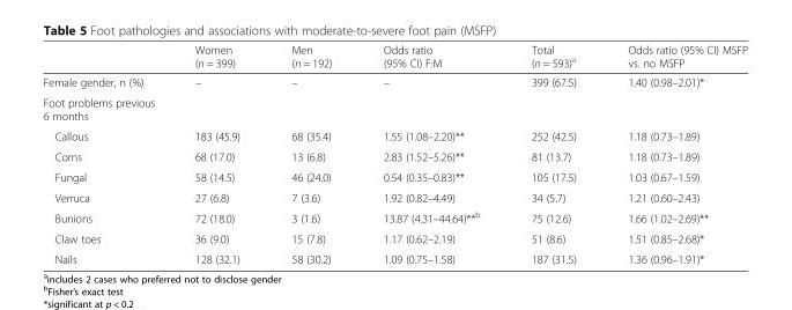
<table><thead><tr><td></td><td>Women (n = 399)</td><td>Men (n = 192)</td><td>Odds ratio (95% CI) F:M</td><td>Total (n = 593)<sup>a</sup></td><td>Odds ratio (95% CI) MSFP vs. no MSFP</td></tr></thead><tbody><tr><td>Female gender, n (%)</td><td>–</td><td>–</td><td>–</td><td>399 (67.5)</td><td>1.40 (0.98–2.01)*</td></tr><tr><td colspan="6">Foot problems previous 6 months</td></tr><tr><td>Callous</td><td>183 (45.9)</td><td>68 (35.4)</td><td>1.55 (1.08–2.20)**</td><td>252 (42.5)</td><td>1.18 (0.73–1.89)</td></tr><tr><td>Corns</td><td>68 (17.0)</td><td>13 (6.8)</td><td>2.83 (1.52–5.26)**</td><td>81 (13.7)</td><td>1.18 (0.73–1.89)</td></tr><tr><td>Fungal</td><td>58 (14.5)</td><td>46 (24.0)</td><td>0.54 (0.35–0.83)**</td><td>105 (17.5)</td><td>1.03 (0.67–1.59)</td></tr><tr><td>Verruca</td><td>27 (6.8)</td><td>7 (3.6)</td><td>1.92 (0.82–4.49)</td><td>34 (5.7)</td><td>1.21 (0.60–2.43)</td></tr><tr><td>Bunions</td><td>72 (18.0)</td><td>3 (1.6)</td><td>13.87 (4.31–44.64)**<sup>b</sup></td><td>75 (12.6)</td><td>1.66 (1.02–2.69)**</td></tr><tr><td>Claw toes</td><td>36 (9.0)</td><td>15 (7.8)</td><td>1.17 (0.62–2.19)</td><td>51 (8.6)</td><td>1.51 (0.85–2.68)*</td></tr><tr><td>Nails</td><td>128 (32.1)</td><td>58 (30.2)</td><td>1.09 (0.75–1.58)</td><td>187 (31.5)</td><td>1.36 (0.96–1.91)*</td></tr></tbody></table>